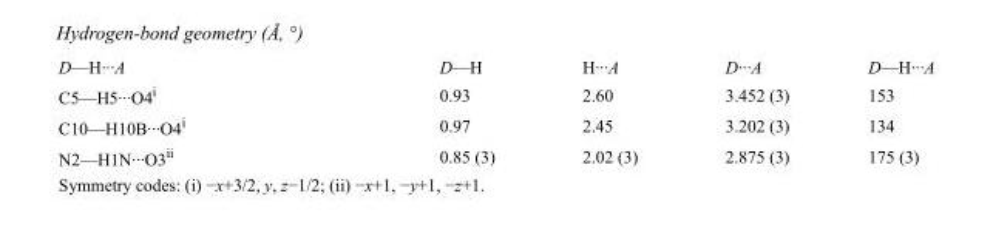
<table><tbody><tr><td>D—H···A</td><td>D—H</td><td>H···A</td><td>D···A</td><td>D—H···A</td></tr><tr><td>C5—H5···O4<sup>i</sup></td><td>0.93</td><td>2.60</td><td>3.452 (3)</td><td>153</td></tr><tr><td>C10—H10B···O4<sup>i</sup></td><td>0.97</td><td>2.45</td><td>3.202 (3)</td><td>134</td></tr><tr><td>N2—H1N···O3<sup>ii</sup></td><td>0.85 (3)</td><td>2.02 (3)</td><td>2.875 (3)</td><td>175 (3)</td></tr></tbody></table>